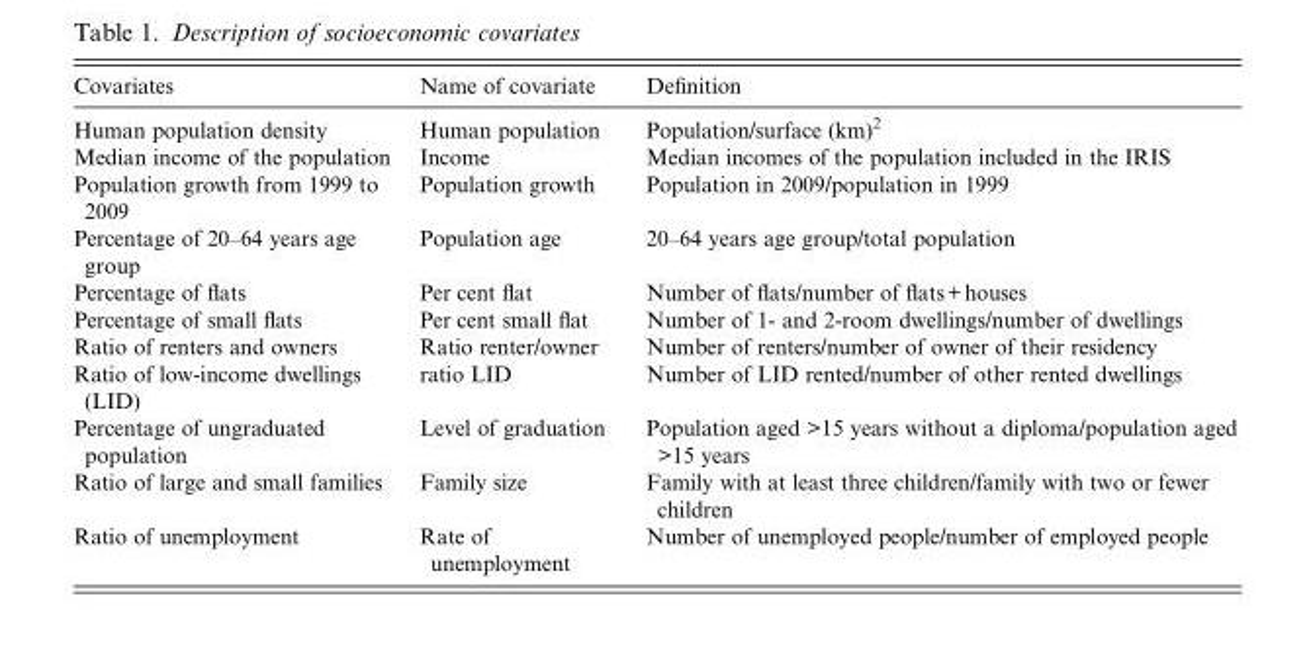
<table><thead><tr><td>Covariates</td><td>Name of covariate</td><td>Definition</td></tr></thead><tbody><tr><td>Human population density</td><td>Human population</td><td>Population/surface (km)<sup>2</sup></td></tr><tr><td>Median income of the population</td><td>Income</td><td>Median incomes of the population included in the IRIS</td></tr><tr><td>Population growth from 1999 to 2009</td><td>Population growth</td><td>Population in 2009/population in 1999</td></tr><tr><td>Percentage of 20–64 years age group</td><td>Population age</td><td>20–64 years age group/total population</td></tr><tr><td>Percentage of flats</td><td>Per cent flat</td><td>Number of flats/number of flats+houses</td></tr><tr><td>Percentage of small flats</td><td>Per cent small flat</td><td>Number of 1- and 2-room dwellings/number of dwellings</td></tr><tr><td>Ratio of renters and owners</td><td>Ratio renter/owner</td><td>Number of renters/number of owner of their residency</td></tr><tr><td>Ratio of low-income dwellings (LID)</td><td>ratio LID</td><td>Number of LID rented/number of other rented dwellings</td></tr><tr><td>Percentage of ungraduated population</td><td>Level of graduation</td><td>Population aged &gt;15 years without a diploma/population aged &gt;15 years</td></tr><tr><td>Ratio of large and small families</td><td>Family size</td><td>Family with at least three children/family with two or fewer children</td></tr><tr><td>Ratio of unemployment</td><td>Rate of unemployment</td><td>Number of unemployed people/number of employed people</td></tr></tbody></table>